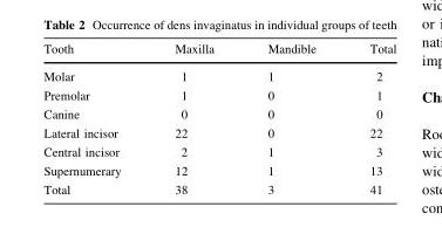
<table><thead><tr><td>Tooth</td><td>Maxilla</td><td>Mandible</td><td>Total</td></tr></thead><tbody><tr><td>Molar</td><td>1</td><td>1</td><td>2</td></tr><tr><td>Premolar</td><td>1</td><td>0</td><td>1</td></tr><tr><td>Canine</td><td>0</td><td>0</td><td>0</td></tr><tr><td>Lateral incisor</td><td>22</td><td>0</td><td>22</td></tr><tr><td>Central incisor</td><td>2</td><td>1</td><td>3</td></tr><tr><td>Supernumerary</td><td>12</td><td>1</td><td>13</td></tr><tr><td>Total</td><td>38</td><td>3</td><td>41</td></tr></tbody></table>